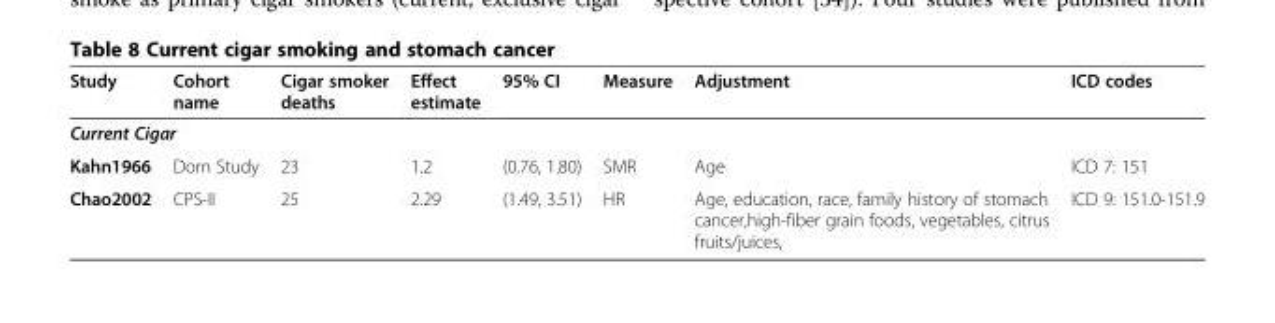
<table><thead><tr><td>Study</td><td>Cohort name</td><td>Cigar smoker deaths</td><td>Effect estimate</td><td>95% CI</td><td>Measure</td><td>Adjustment</td><td>ICD codes</td></tr></thead><tbody><tr><td colspan="8">Current Cigar</td></tr><tr><td>Kahn1966</td><td>Dorn Study</td><td>23</td><td>1.2</td><td>(0.76, 1.80)</td><td>SMR</td><td>Age</td><td>ICD 7: 151</td></tr><tr><td>Chao2002</td><td>CPS-II</td><td>25</td><td>2.29</td><td>(1.49, 3.51)</td><td>HR</td><td>Age, education, race, family history of stomach cancer,high-fiber grain foods, vegetables, citrus fruits/juices,</td><td>ICD 9: 151.0-151.9</td></tr></tbody></table>